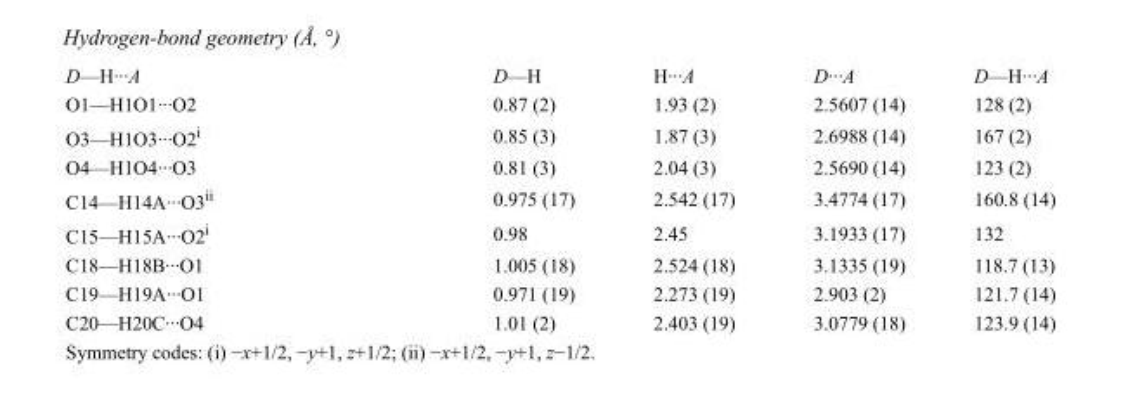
<table><tbody><tr><td>D—H···A</td><td>D—H</td><td>H···A</td><td>D···A</td><td>D—H···A</td></tr><tr><td>O1—H1O1···O2</td><td>0.87 (2)</td><td>1.93 (2)</td><td>2.5607 (14)</td><td>128 (2)</td></tr><tr><td>O3—H1O3···O2<sup>i</sup></td><td>0.85 (3)</td><td>1.87 (3)</td><td>2.6988 (14)</td><td>167 (2)</td></tr><tr><td>O4—H1O4···O3</td><td>0.81 (3)</td><td>2.04 (3)</td><td>2.5690 (14)</td><td>123 (2)</td></tr><tr><td>C14—H14A···O3<sup>ii</sup></td><td>0.975 (17)</td><td>2.542 (17)</td><td>3.4774 (17)</td><td>160.8 (14)</td></tr><tr><td>C15—H15A···O2<sup>i</sup></td><td>0.98</td><td>2.45</td><td>3.1933 (17)</td><td>132</td></tr><tr><td>C18—H18B···O1</td><td>1.005 (18)</td><td>2.524 (18)</td><td>3.1335 (19)</td><td>118.7 (13)</td></tr><tr><td>C19—H19A···O1</td><td>0.971 (19)</td><td>2.273 (19)</td><td>2.903 (2)</td><td>121.7 (14)</td></tr><tr><td>C20—H20C···O4</td><td>1.01 (2)</td><td>2.403 (19)</td><td>3.0779 (18)</td><td>123.9 (14)</td></tr></tbody></table>